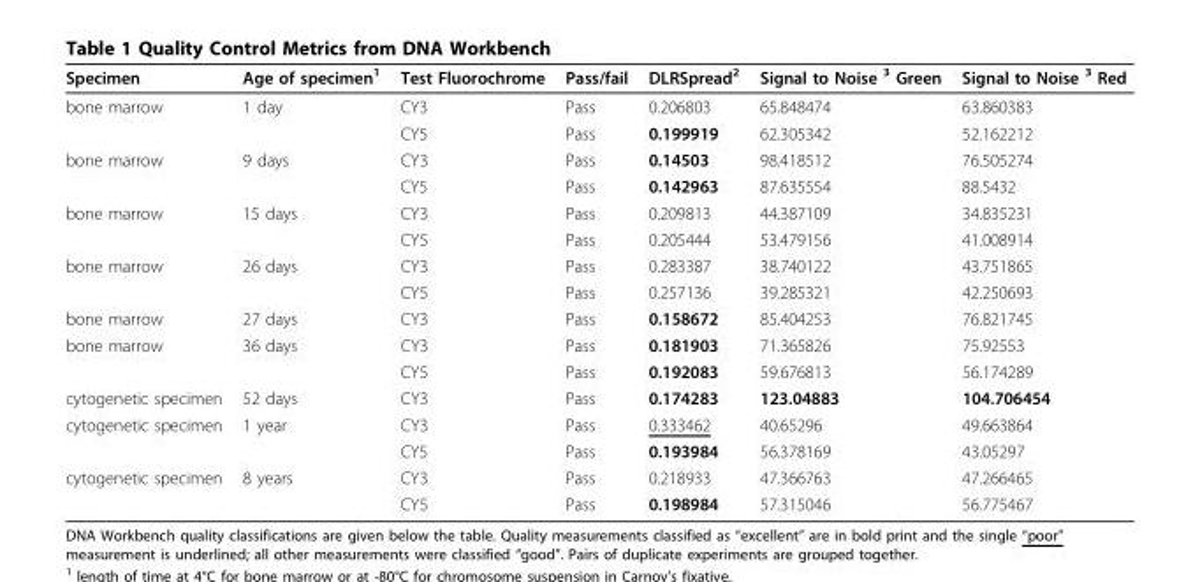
<table><thead><tr><td>Specimen</td><td>Age of specimen<sup>1</sup></td><td>Test Fluorochrome</td><td>Pass/fail</td><td>DLRSpread<sup>2</sup></td><td>Signal to Noise <sup>3</sup> Green</td><td>Signal to Noise <sup>3</sup> Red</td></tr></thead><tbody><tr><td rowspan="2">bone marrow</td><td>1 day</td><td>CY3</td><td>Pass</td><td>0.206803</td><td>65.848474</td><td>63.860383</td></tr><tr><td></td><td>CY5</td><td>Pass</td><td>0.199919</td><td>62.305342</td><td>52.162212</td></tr><tr><td rowspan="2">bone marrow</td><td>9 days</td><td>CY3</td><td>Pass</td><td>0.14503</td><td>98.418512</td><td>76.505274</td></tr><tr><td></td><td>CY5</td><td>Pass</td><td>0.142963</td><td>87.635554</td><td>88.5432</td></tr><tr><td rowspan="2">bone marrow</td><td>15 days</td><td>CY3</td><td>Pass</td><td>0.209813</td><td>44.387109</td><td>34.835231</td></tr><tr><td></td><td>CY5</td><td>Pass</td><td>0.205444</td><td>53.479156</td><td>41.008914</td></tr><tr><td rowspan="2">bone marrow</td><td>26 days</td><td>CY3</td><td>Pass</td><td>0.283387</td><td>38.740122</td><td>43.751865</td></tr><tr><td></td><td>CY5</td><td>Pass</td><td>0.257136</td><td>39.285321</td><td>42.250693</td></tr><tr><td>bone marrow</td><td>27 days</td><td>CY3</td><td>Pass</td><td>0.158672</td><td>85.404253</td><td>76.821745</td></tr><tr><td rowspan="2">bone marrow</td><td>36 days</td><td>CY3</td><td>Pass</td><td>0.181903</td><td>71.365826</td><td>75.92553</td></tr><tr><td></td><td>CY5</td><td>Pass</td><td>0.192083</td><td>59.676813</td><td>56.174289</td></tr><tr><td>cytogenetic specimen</td><td>52 days</td><td>CY3</td><td>Pass</td><td>0.174283</td><td>123.04883</td><td>104.706454</td></tr><tr><td rowspan="2">cytogenetic specimen</td><td>1 year</td><td>CY3</td><td>Pass</td><td>0.333462</td><td>40.65296</td><td>49.663864</td></tr><tr><td></td><td>CY5</td><td>Pass</td><td>0.193984</td><td>56.378169</td><td>43.05297</td></tr><tr><td rowspan="2">cytogenetic specimen</td><td>8 years</td><td>CY3</td><td>Pass</td><td>0.218933</td><td>47.366763</td><td>47.266465</td></tr><tr><td></td><td>CY5</td><td>Pass</td><td>0.198984</td><td>57.315046</td><td>56.775467</td></tr></tbody></table>